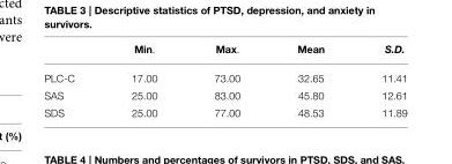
<table><thead><tr><td></td><td>Min.</td><td>Max.</td><td>Mean</td><td>S.D.</td></tr></thead><tbody><tr><td>PLC-C</td><td>17.00</td><td>73.00</td><td>32.65</td><td>11.41</td></tr><tr><td>SAS</td><td>25.00</td><td>83.00</td><td>45.80</td><td>12.61</td></tr><tr><td>SDS</td><td>25.00</td><td>77.00</td><td>48.53</td><td>11.89</td></tr></tbody></table>